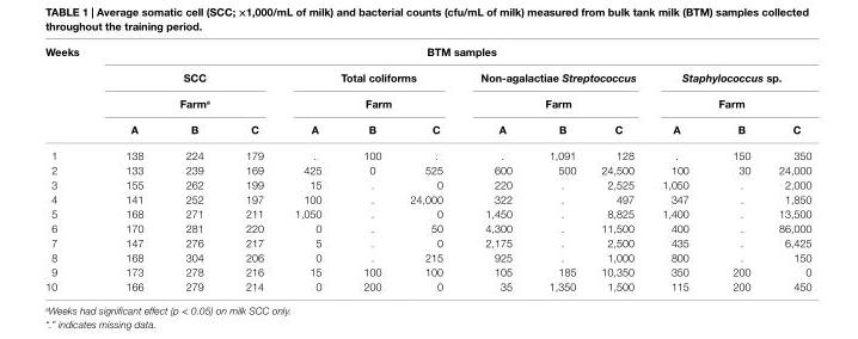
<table><thead><tr><td rowspan="4">Weeks</td><td colspan="12">BtM samples</td></tr><tr><td rowspan="2" colspan="3">scc Farm<sup>a</sup></td><td rowspan="2" colspan="3">total coliforms Farm</td><td rowspan="2" colspan="3">Non-agalactiae Streptococcus Farm</td><td rowspan="2" colspan="3">Staphylococcus sp. Farm</td></tr><tr></tr><tr><td>A</td><td>B</td><td>c</td><td>A</td><td>B</td><td>c</td><td>A</td><td>B</td><td>c</td><td>A</td><td>B</td><td>c</td></tr></thead><tbody><tr><td>1</td><td>138</td><td>224</td><td>179</td><td>.</td><td>100</td><td>.</td><td>.</td><td>1,091</td><td>128</td><td>.</td><td>150</td><td>350</td></tr><tr><td>2</td><td>133</td><td>239</td><td>169</td><td>425</td><td>0</td><td>525</td><td>600</td><td>500</td><td>24,500</td><td>100</td><td>30</td><td>24,000</td></tr><tr><td>3</td><td>155</td><td>262</td><td>199</td><td>15</td><td>.</td><td>0</td><td>220</td><td>.</td><td>2,525</td><td>1,050</td><td>.</td><td>2,000</td></tr><tr><td>4</td><td>141</td><td>252</td><td>197</td><td>100</td><td>.</td><td>24,000</td><td>322</td><td>.</td><td>497</td><td>347</td><td>.</td><td>1,850</td></tr><tr><td>5</td><td>168</td><td>271</td><td>211</td><td>1,050</td><td>.</td><td>0</td><td>1,450</td><td>.</td><td>8,825</td><td>1,400</td><td>.</td><td>13,500</td></tr><tr><td>6</td><td>170</td><td>281</td><td>220</td><td>0</td><td>.</td><td>50</td><td>4,300</td><td>.</td><td>11,500</td><td>400</td><td>.</td><td>86,000</td></tr><tr><td>7</td><td>147</td><td>276</td><td>217</td><td>5</td><td>.</td><td>0</td><td>2,175</td><td>.</td><td>2,500</td><td>435</td><td>.</td><td>6,425</td></tr><tr><td>8</td><td>168</td><td>304</td><td>206</td><td>0</td><td>.</td><td>215</td><td>925</td><td>.</td><td>1,000</td><td>800</td><td>.</td><td>150</td></tr><tr><td>9</td><td>173</td><td>278</td><td>216</td><td>15</td><td>100</td><td>100</td><td>105</td><td>185</td><td>10,350</td><td>350</td><td>200</td><td>0</td></tr><tr><td>10</td><td>166</td><td>279</td><td>214</td><td>0</td><td>200</td><td>0</td><td>35</td><td>1,350</td><td>1,500</td><td>115</td><td>200</td><td>450</td></tr></tbody></table>